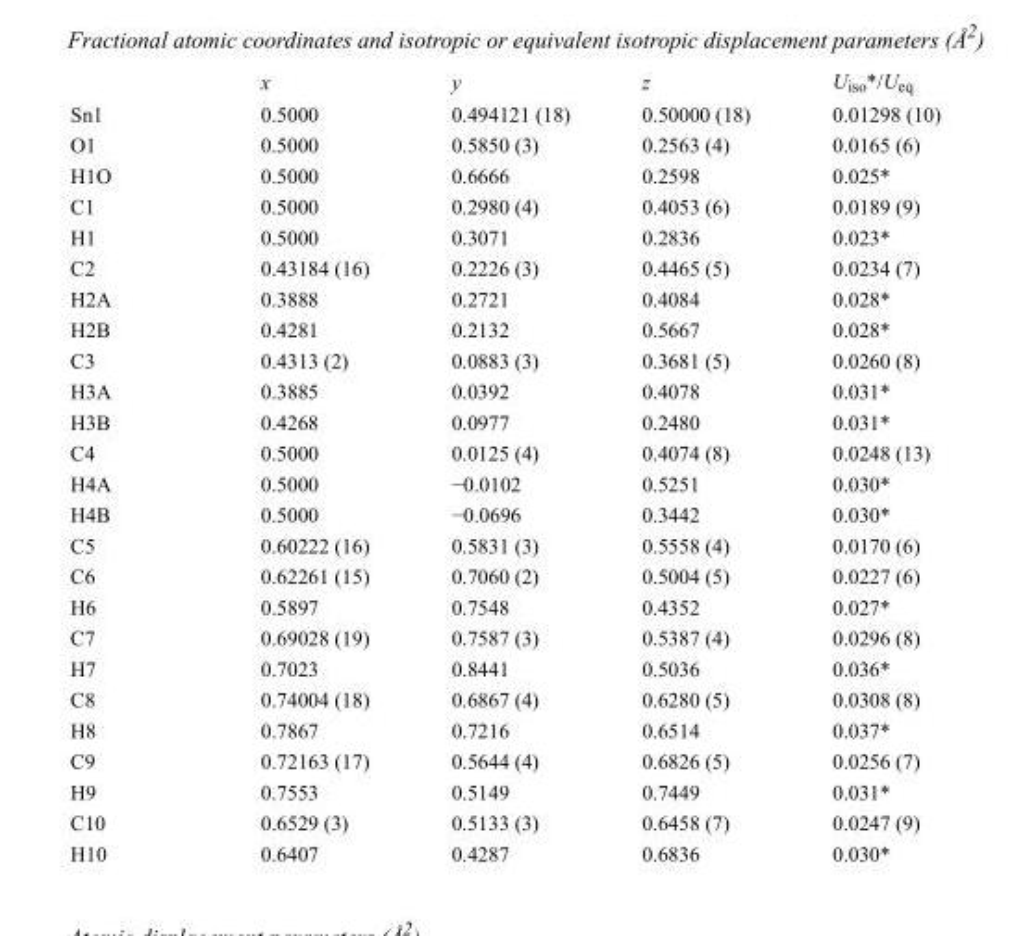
<table><thead><tr><td></td><td>x</td><td>y</td><td>z</td><td>U<sub>iso</sub>*/U<sub>eq</sub></td></tr></thead><tbody><tr><td>Sn1</td><td>0.5000</td><td>0.494121 (18)</td><td>0.50000 (18)</td><td>0.01298 (10)</td></tr><tr><td>O1</td><td>0.5000</td><td>0.5850 (3)</td><td>0.2563 (4)</td><td>0.0165 (6)</td></tr><tr><td>H1O</td><td>0.5000</td><td>0.6666</td><td>0.2598</td><td>0.025*</td></tr><tr><td>C1</td><td>0.5000</td><td>0.2980 (4)</td><td>0.4053 (6)</td><td>0.0189 (9)</td></tr><tr><td>H1</td><td>0.5000</td><td>0.3071</td><td>0.2836</td><td>0.023*</td></tr><tr><td>C2</td><td>0.43184 (16)</td><td>0.2226 (3)</td><td>0.4465 (5)</td><td>0.0234 (7)</td></tr><tr><td>H2A</td><td>0.3888</td><td>0.2721</td><td>0.4084</td><td>0.028*</td></tr><tr><td>H2B</td><td>0.4281</td><td>0.2132</td><td>0.5667</td><td>0.028*</td></tr><tr><td>C3</td><td>0.4313 (2)</td><td>0.0883 (3)</td><td>0.3681 (5)</td><td>0.0260 (8)</td></tr><tr><td>H3A</td><td>0.3885</td><td>0.0392</td><td>0.4078</td><td>0.031*</td></tr><tr><td>H3B</td><td>0.4268</td><td>0.0977</td><td>0.2480</td><td>0.031*</td></tr><tr><td>C4</td><td>0.5000</td><td>0.0125 (4)</td><td>0.4074 (8)</td><td>0.0248 (13)</td></tr><tr><td>H4A</td><td>0.5000</td><td>−0.0102</td><td>0.5251</td><td>0.030*</td></tr><tr><td>H4B</td><td>0.5000</td><td>−0.0696</td><td>0.3442</td><td>0.030*</td></tr><tr><td>C5</td><td>0.60222 (16)</td><td>0.5831 (3)</td><td>0.5558 (4)</td><td>0.0170 (6)</td></tr><tr><td>C6</td><td>0.62261 (15)</td><td>0.7060 (2)</td><td>0.5004 (5)</td><td>0.0227 (6)</td></tr><tr><td>H6</td><td>0.5897</td><td>0.7548</td><td>0.4352</td><td>0.027*</td></tr><tr><td>C7</td><td>0.69028 (19)</td><td>0.7587 (3)</td><td>0.5387 (4)</td><td>0.0296 (8)</td></tr><tr><td>H7</td><td>0.7023</td><td>0.8441</td><td>0.5036</td><td>0.036*</td></tr><tr><td>C8</td><td>0.74004 (18)</td><td>0.6867 (4)</td><td>0.6280 (5)</td><td>0.0308 (8)</td></tr><tr><td>H8</td><td>0.7867</td><td>0.7216</td><td>0.6514</td><td>0.037*</td></tr><tr><td>C9</td><td>0.72163 (17)</td><td>0.5644 (4)</td><td>0.6826 (5)</td><td>0.0256 (7)</td></tr><tr><td>H9</td><td>0.7553</td><td>0.5149</td><td>0.7449</td><td>0.031*</td></tr><tr><td>C10</td><td>0.6529 (3)</td><td>0.5133 (3)</td><td>0.6458 (7)</td><td>0.0247 (9)</td></tr><tr><td>H10</td><td>0.6407</td><td>0.4287</td><td>0.6836</td><td>0.030*</td></tr></tbody></table>